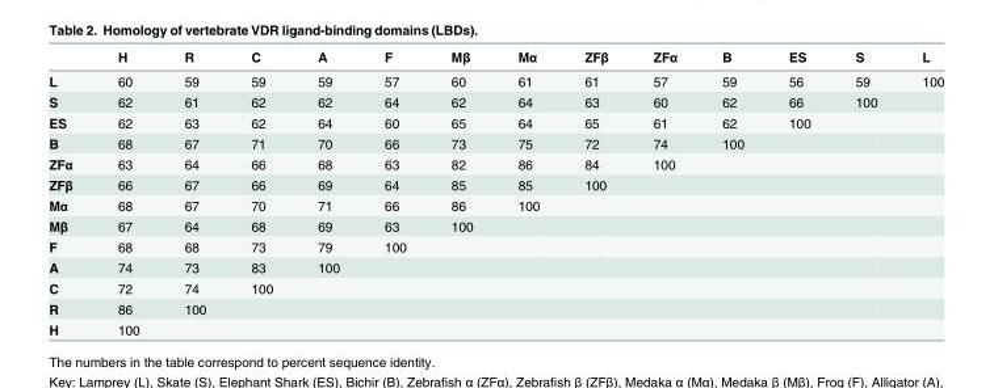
<table><thead><tr><td></td><td>H</td><td>R</td><td>C</td><td>A</td><td>F</td><td>Mβ</td><td>Mα</td><td>ZFβ</td><td>ZFα</td><td>B</td><td>ES</td><td>S</td><td>L</td></tr></thead><tbody><tr><td>L</td><td>60</td><td>59</td><td>59</td><td>59</td><td>57</td><td>60</td><td>61</td><td>61</td><td>57</td><td>59</td><td>56</td><td>59</td><td>100</td></tr><tr><td>S</td><td>62</td><td>61</td><td>62</td><td>62</td><td>64</td><td>62</td><td>64</td><td>63</td><td>60</td><td>62</td><td>66</td><td>100</td><td></td></tr><tr><td>ES</td><td>62</td><td>63</td><td>62</td><td>64</td><td>60</td><td>65</td><td>64</td><td>65</td><td>61</td><td>62</td><td>100</td><td></td><td></td></tr><tr><td>B</td><td>68</td><td>67</td><td>71</td><td>70</td><td>66</td><td>73</td><td>75</td><td>72</td><td>74</td><td>100</td><td></td><td></td><td></td></tr><tr><td>ZFα</td><td>63</td><td>64</td><td>66</td><td>68</td><td>63</td><td>82</td><td>86</td><td>84</td><td>100</td><td></td><td></td><td></td><td></td></tr><tr><td>ZFβ</td><td>66</td><td>67</td><td>66</td><td>69</td><td>64</td><td>85</td><td>85</td><td>100</td><td></td><td></td><td></td><td></td><td></td></tr><tr><td>Mα</td><td>68</td><td>67</td><td>70</td><td>71</td><td>66</td><td>86</td><td>100</td><td></td><td></td><td></td><td></td><td></td><td></td></tr><tr><td>Mβ</td><td>67</td><td>64</td><td>68</td><td>69</td><td>63</td><td>100</td><td></td><td></td><td></td><td></td><td></td><td></td><td></td></tr><tr><td>F</td><td>68</td><td>68</td><td>73</td><td>79</td><td>100</td><td></td><td></td><td></td><td></td><td></td><td></td><td></td><td></td></tr><tr><td>A</td><td>74</td><td>73</td><td>83</td><td>100</td><td></td><td></td><td></td><td></td><td></td><td></td><td></td><td></td><td></td></tr><tr><td>C</td><td>72</td><td>74</td><td>100</td><td></td><td></td><td></td><td></td><td></td><td></td><td></td><td></td><td></td><td></td></tr><tr><td>R</td><td>86</td><td>100</td><td></td><td></td><td></td><td></td><td></td><td></td><td></td><td></td><td></td><td></td><td></td></tr><tr><td>H</td><td>100</td><td></td><td></td><td></td><td></td><td></td><td></td><td></td><td></td><td></td><td></td><td></td><td></td></tr></tbody></table>